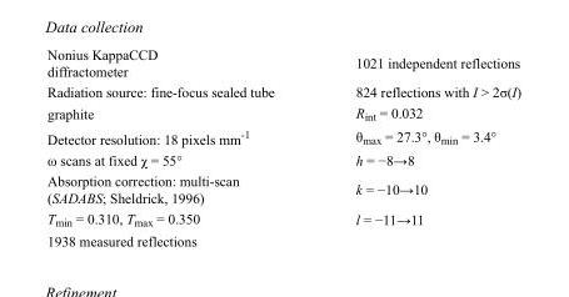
<table><tbody><tr><td>Nonius KappaCCD diffractometer</td><td>1021 independent reflections</td></tr><tr><td>Radiation source: fine-focus sealed tube</td><td>824 reflections with I &gt; 2σ(I)</td></tr><tr><td>graphite</td><td>R<sub>int</sub> = 0.032</td></tr><tr><td>Detector resolution: 18 pixels mm<sup>-1</sup></td><td>θ<sub>max</sub> = 27.3°, θ<sub>min</sub> = 3.4°</td></tr><tr><td>ω scans at fixed χ = 55°</td><td>h = −8→8</td></tr><tr><td>Absorption correction: multi-scan (SADABS; Sheldrick, 1996)</td><td>k = −10→10</td></tr><tr><td>T<sub>min</sub> = 0.310, T<sub>max</sub> = 0.350</td><td>l = −11→11</td></tr><tr><td>1938 measured reflections</td><td></td></tr></tbody></table>